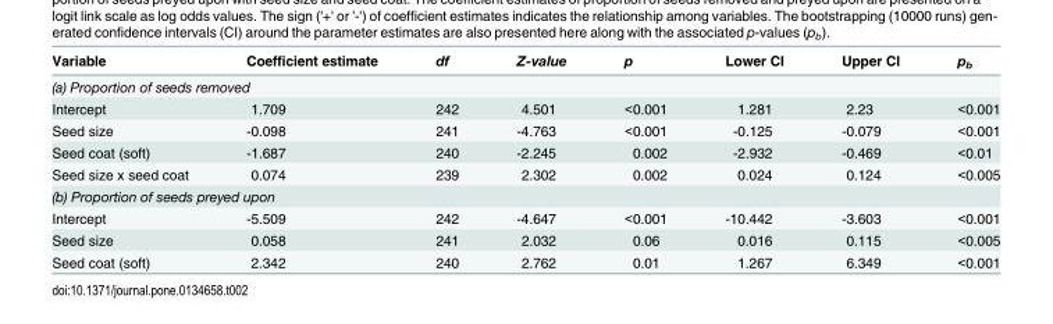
<table><thead><tr><td>Variable</td><td>Coefficient estimate</td><td>df</td><td>Z-value</td><td>p</td><td>Lower CI</td><td>Upper CI</td><td>p<sub>b</sub></td></tr></thead><tbody><tr><td colspan="8">(a) Proportion of seeds removed</td></tr><tr><td>Intercept</td><td>1.709</td><td>242</td><td>4.501</td><td>&lt;0.001</td><td>1.281</td><td>2.23</td><td>&lt;0.001</td></tr><tr><td>Seed size</td><td>-0.098</td><td>241</td><td>-4.763</td><td>&lt;0.001</td><td>-0.125</td><td>-0.079</td><td>&lt;0.001</td></tr><tr><td>Seed coat (soft)</td><td>-1.687</td><td>240</td><td>-2.245</td><td>0.002</td><td>-2.932</td><td>-0.469</td><td>&lt;0.01</td></tr><tr><td>Seed size x seed coat</td><td>0.074</td><td>239</td><td>2.302</td><td>0.002</td><td>0.024</td><td>0.124</td><td>&lt;0.005</td></tr><tr><td colspan="8">(b) Proportion of seeds preyed upon</td></tr><tr><td>Intercept</td><td>-5.509</td><td>242</td><td>-4.647</td><td>&lt;0.001</td><td>-10.442</td><td>-3.603</td><td>&lt;0.001</td></tr><tr><td>Seed size</td><td>0.058</td><td>241</td><td>2.032</td><td>0.06</td><td>0.016</td><td>0.115</td><td>&lt;0.005</td></tr><tr><td>Seed coat (soft)</td><td>2.342</td><td>240</td><td>2.762</td><td>0.01</td><td>1.267</td><td>6.349</td><td>&lt;0.001</td></tr></tbody></table>